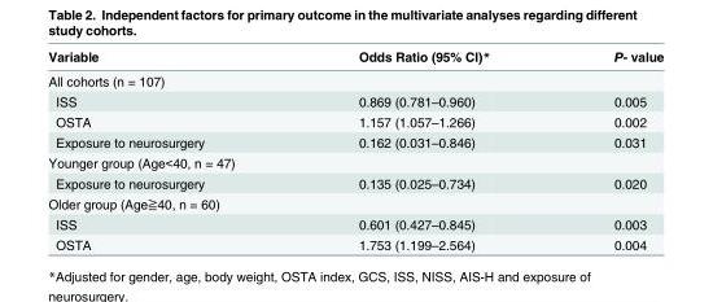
<table><thead><tr><td>Variable</td><td>Odds Ratio (95% CI)*</td><td>P- value</td></tr></thead><tbody><tr><td colspan="3">All cohorts (n = 107)</td></tr><tr><td>ISS</td><td>0.869 (0.781–0.960)</td><td>0.005</td></tr><tr><td>OSTA</td><td>1.157 (1.057–1.266)</td><td>0.002</td></tr><tr><td>Exposure to neurosurgery</td><td>0.162 (0.031–0.846)</td><td>0.031</td></tr><tr><td colspan="3">Younger group (Age&lt;40, n = 47)</td></tr><tr><td>Exposure to neurosurgery</td><td>0.135 (0.025–0.734)</td><td>0.020</td></tr><tr><td colspan="3">Older group (Age≧40, n = 60)</td></tr><tr><td>ISS</td><td>0.601 (0.427–0.845)</td><td>0.003</td></tr><tr><td>OSTA</td><td>1.753 (1.199–2.564)</td><td>0.004</td></tr></tbody></table>